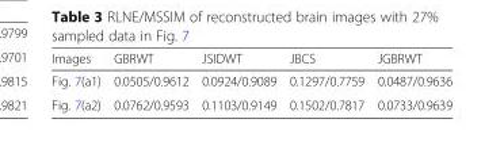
<table><thead><tr><td>Images</td><td>GBRWT</td><td>JSIDWT</td><td>JBCS</td><td>JGBRWT</td></tr></thead><tbody><tr><td>Fig. 7(a1)</td><td>0.0505/0.9612</td><td>0.0924/0.9089</td><td>0.1297/0.7759</td><td>0.0487/0.9636</td></tr><tr><td>Fig. 7(a2)</td><td>0.0762/0.9593</td><td>0.1103/0.9149</td><td>0.1502/0.7817</td><td>0.0733/0.9639</td></tr></tbody></table>